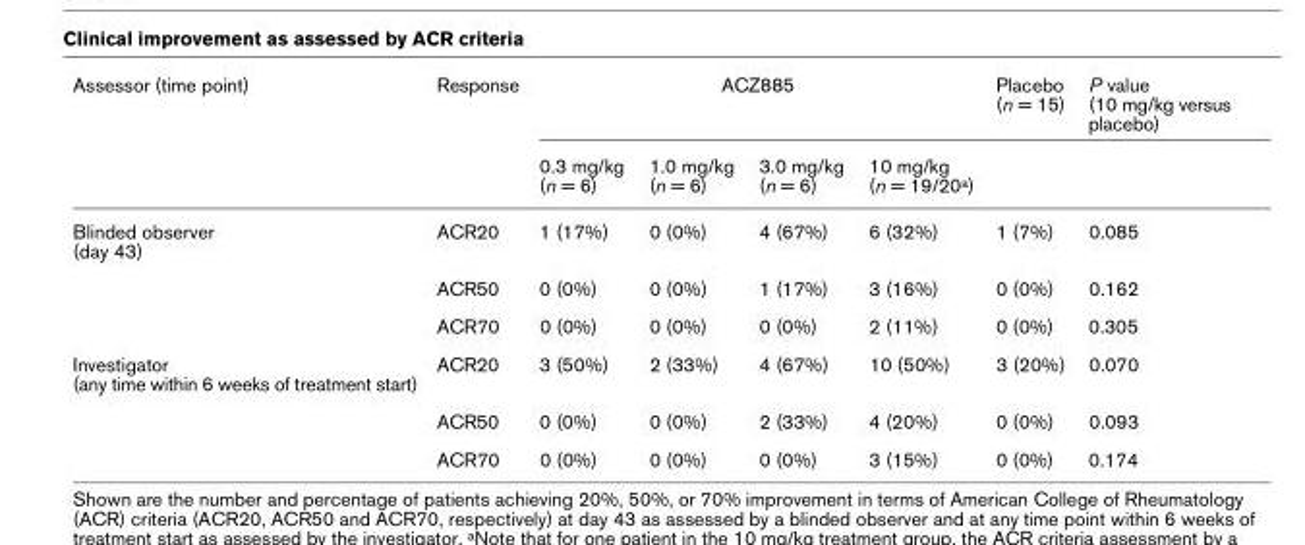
<table><thead><tr><td rowspan="2">Assessor (time point)</td><td rowspan="2">Response</td><td colspan="4">ACZ885</td><td rowspan="2">Placebo (n = 15)</td><td rowspan="2">P value (10 mg/kg versus placebo)</td></tr><tr><td>0.3 mg/kg (n = 6)</td><td>1.0 mg/kg (n = 6)</td><td>3.0 mg/kg (n = 6)</td><td>10 mg/kg (n = 19/20<sup>a</sup>)</td></tr></thead><tbody><tr><td rowspan="3">Blinded observer (day 43)</td><td>ACR20</td><td>1 (17%)</td><td>0 (0%)</td><td>4 (67%)</td><td>6 (32%)</td><td>1 (7%)</td><td>0.085</td></tr><tr><td>ACR50</td><td>0 (0%)</td><td>0 (0%)</td><td>1 (17%)</td><td>3 (16%)</td><td>0 (0%)</td><td>0.162</td></tr><tr><td>ACR70</td><td>0 (0%)</td><td>0 (0%)</td><td>0 (0%)</td><td>2 (11%)</td><td>0 (0%)</td><td>0.305</td></tr><tr><td rowspan="3">Investigator (any time within 6 weeks of treatment start)</td><td>ACR20</td><td>3 (50%)</td><td>2 (33%)</td><td>4 (67%)</td><td>10 (50%)</td><td>3 (20%)</td><td>0.070</td></tr><tr><td>ACR50</td><td>0 (0%)</td><td>0 (0%)</td><td>2 (33%)</td><td>4 (20%)</td><td>0 (0%)</td><td>0.093</td></tr><tr><td>ACR70</td><td>0 (0%)</td><td>0 (0%)</td><td>0 (0%)</td><td>3 (15%)</td><td>0 (0%)</td><td>0.174</td></tr></tbody></table>